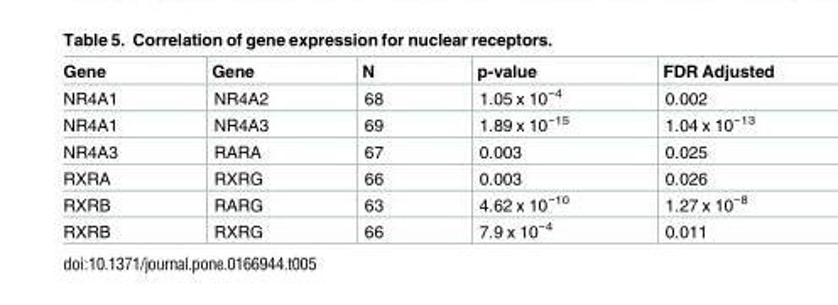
<table><thead><tr><td>Gene</td><td>Gene</td><td>N</td><td>p-value</td><td>FDR Adjusted</td></tr></thead><tbody><tr><td>NR4A1</td><td>NR4A2</td><td>68</td><td>1.05 x 10<sup>−4</sup></td><td>0.002</td></tr><tr><td>NR4A1</td><td>NR4A3</td><td>69</td><td>1.89 x 10<sup>−15</sup></td><td>1.04 x 10<sup>−13</sup></td></tr><tr><td>NR4A3</td><td>RARA</td><td>67</td><td>0.003</td><td>0.025</td></tr><tr><td>RXRA</td><td>RXRG</td><td>66</td><td>0.003</td><td>0.026</td></tr><tr><td>RXRB</td><td>RARG</td><td>63</td><td>4.62 x 10<sup>−10</sup></td><td>1.27 x 10<sup>−8</sup></td></tr><tr><td>RXRB</td><td>RXRG</td><td>66</td><td>7.9 x 10<sup>−4</sup></td><td>0.011</td></tr></tbody></table>